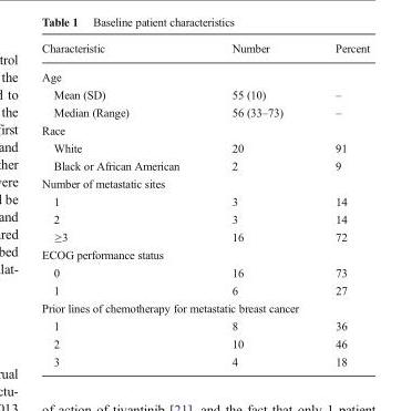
<table><thead><tr><td>Characteristic</td><td>Number</td><td>Percent</td></tr></thead><tbody><tr><td colspan="3">Age</td></tr><tr><td>Mean (SD)</td><td>55 (10)</td><td>–</td></tr><tr><td>Median (Range)</td><td>56 (33–73)</td><td>–</td></tr><tr><td colspan="3">Race</td></tr><tr><td>White</td><td>20</td><td>91</td></tr><tr><td>Black or African American</td><td>2</td><td>9</td></tr><tr><td colspan="3">Number of metastatic sites</td></tr><tr><td>1</td><td>3</td><td>14</td></tr><tr><td>2</td><td>3</td><td>14</td></tr><tr><td>≥3</td><td>16</td><td>72</td></tr><tr><td colspan="3">ECOG performance status</td></tr><tr><td>0</td><td>16</td><td>73</td></tr><tr><td>1</td><td>6</td><td>27</td></tr><tr><td colspan="3">Prior lines of chemotherapy for metastatic breast cancer</td></tr><tr><td>1</td><td>8</td><td>36</td></tr><tr><td>2</td><td>10</td><td>46</td></tr><tr><td>3</td><td>4</td><td>18</td></tr></tbody></table>